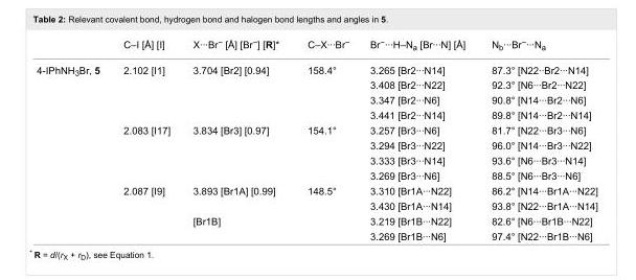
<table><thead><tr><td></td><td>C–I [Å] [I]</td><td>X···Br<sup>−</sup> [Å] [Br<sup>−</sup>] [R]*</td><td>C–X···Br<sup>−</sup></td><td>Br<sup>−</sup>···H–N<sub>a</sub> [Br···N] [Å]</td><td>N<sub>b</sub>···Br<sup>−</sup>···N<sub>a</sub></td></tr></thead><tbody><tr><td rowspan="12">4-IPhNH<sub>3</sub>Br, 5</td><td>2.102 [I1]</td><td>3.704 [Br2] [0.94]</td><td>158.4°</td><td>3.265 [Br2···N14]</td><td>87.3° [N22··Br2···N14]</td></tr><tr><td></td><td></td><td></td><td>3.408 [Br2···N22]</td><td>92.3° [N6···Br2···N22]</td></tr><tr><td></td><td></td><td></td><td>3.347 [Br2···N6]</td><td>90.8° [N14···Br2···N6]</td></tr><tr><td></td><td></td><td></td><td>3.441 [Br2···N14]</td><td>89.8° [N14···Br2···N14]</td></tr><tr><td>2.083 [I17]</td><td>3.834 [Br3] [0.97]</td><td>154.1°</td><td>3.257 [Br3···N6]</td><td>81.7° [N22···Br3···N6]</td></tr><tr><td></td><td></td><td></td><td>3.294 [Br3···N22]</td><td>96.0° [N14···Br3···N22]</td></tr><tr><td></td><td></td><td></td><td>3.333 [Br3···N14]</td><td>93.6° [N6···Br3···N14]</td></tr><tr><td></td><td></td><td></td><td>3.269 [Br3···N6]</td><td>88.5° [N6···Br3···N6]</td></tr><tr><td>2.087 [I9]</td><td>3.893 [Br1A] [0.99]</td><td>148.5°</td><td>3.310 [Br1A···N22]</td><td>86.2° [N14···Br1A···N22]</td></tr><tr><td></td><td></td><td></td><td>3.430 [Br1A···N14]</td><td>93.8° [N22···Br1A···N14]</td></tr><tr><td></td><td>[Br1B]</td><td></td><td>3.219 [Br1B···N22]</td><td>82.6° [N6···Br1B···N22]</td></tr><tr><td></td><td></td><td></td><td>3.269 [Br1B···N6]</td><td>97.4° [N22···Br1B···N6]</td></tr></tbody></table>